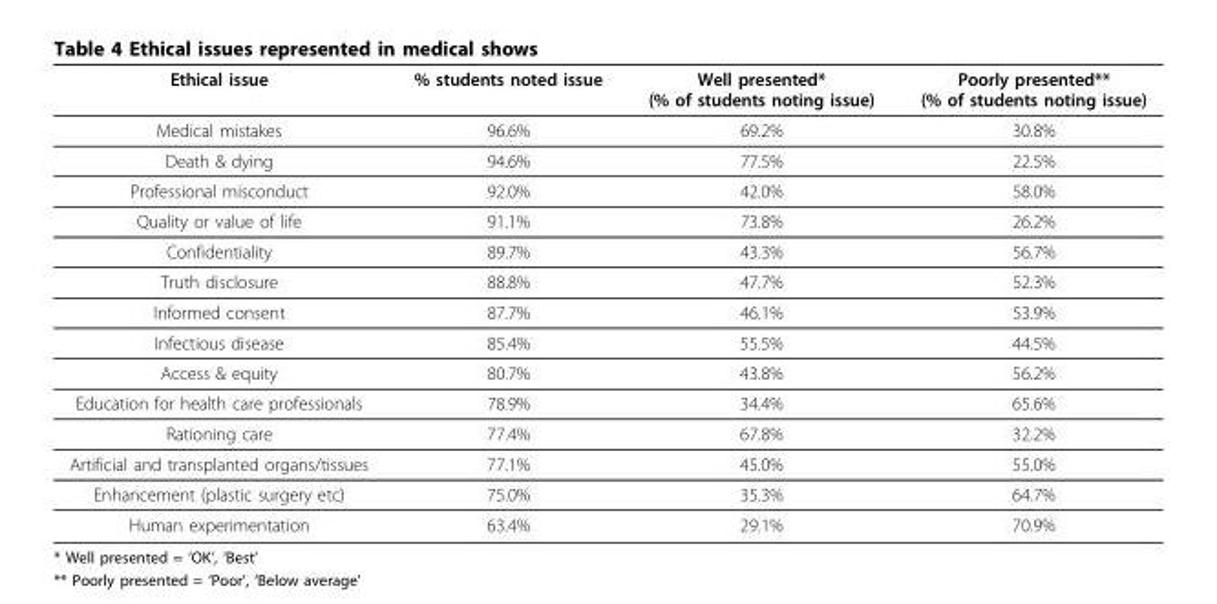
<table><thead><tr><td>Ethical issue</td><td>% students noted issue</td><td>Well presented* (% of students noting issue)</td><td>Poorly presented** (% of students noting issue)</td></tr></thead><tbody><tr><td>Medical mistakes</td><td>96.6%</td><td>69.2%</td><td>30.8%</td></tr><tr><td>Death &amp; dying</td><td>94.6%</td><td>77.5%</td><td>22.5%</td></tr><tr><td>Professional misconduct</td><td>92.0%</td><td>42.0%</td><td>58.0%</td></tr><tr><td>Quality or value of life</td><td>91.1%</td><td>73.8%</td><td>26.2%</td></tr><tr><td>Confidentiality</td><td>89.7%</td><td>43.3%</td><td>56.7%</td></tr><tr><td>Truth disclosure</td><td>88.8%</td><td>47.7%</td><td>52.3%</td></tr><tr><td>Informed consent</td><td>87.7%</td><td>46.1%</td><td>53.9%</td></tr><tr><td>Infectious disease</td><td>85.4%</td><td>55.5%</td><td>44.5%</td></tr><tr><td>Access &amp; equity</td><td>80.7%</td><td>43.8%</td><td>56.2%</td></tr><tr><td>Education for health care professionals</td><td>78.9%</td><td>34.4%</td><td>65.6%</td></tr><tr><td>Rationing care</td><td>77.4%</td><td>67.8%</td><td>32.2%</td></tr><tr><td>Artificial and transplanted organs/tissues</td><td>77.1%</td><td>45.0%</td><td>55.0%</td></tr><tr><td>Enhancement (plastic surgery etc)</td><td>75.0%</td><td>35.3%</td><td>64.7%</td></tr><tr><td>Human experimentation</td><td>63.4%</td><td>29.1%</td><td>70.9%</td></tr></tbody></table>